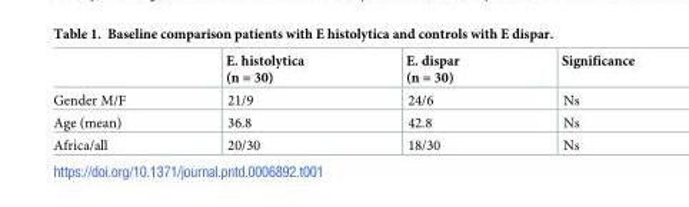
<table><thead><tr><td></td><td>E. histolytica (n = 30)</td><td>E. dispar (n = 30)</td><td>Significance</td></tr></thead><tbody><tr><td>Gender M/F</td><td>21/9</td><td>24/6</td><td>Ns</td></tr><tr><td>Age (mean)</td><td>36.8</td><td>42.8</td><td>Ns</td></tr><tr><td>Africa/all</td><td>20/30</td><td>18/30</td><td>Ns</td></tr></tbody></table>